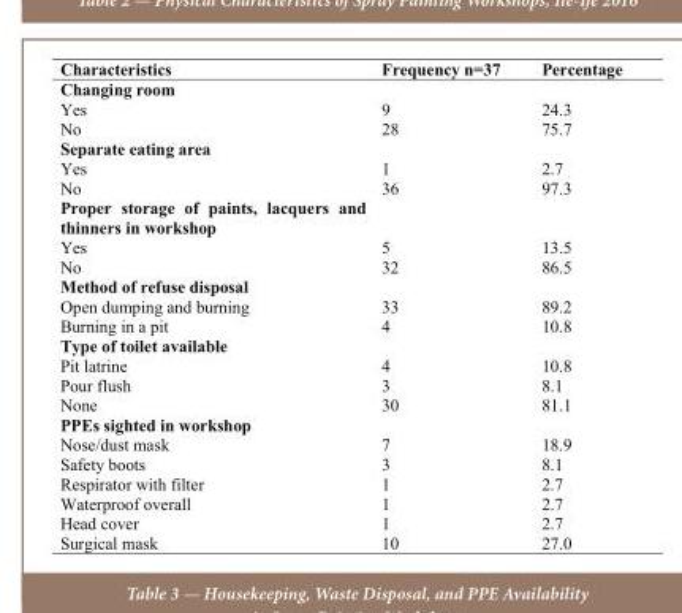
<table><thead><tr><td>Characteristics</td><td>Frequency n=37</td><td>Percentage</td></tr></thead><tbody><tr><td colspan="3">Changing room</td></tr><tr><td>Yes</td><td>9</td><td>24.3</td></tr><tr><td>No</td><td>28</td><td>75.7</td></tr><tr><td colspan="3">Separate eating area</td></tr><tr><td>Yes</td><td>1</td><td>2.7</td></tr><tr><td>No</td><td>36</td><td>97.3</td></tr><tr><td colspan="3">Proper storage of paints, lacquers and thinners in workshop</td></tr><tr><td>Yes</td><td>5</td><td>13.5</td></tr><tr><td>No</td><td>32</td><td>86.5</td></tr><tr><td colspan="3">Method of refuse disposal</td></tr><tr><td>Open dumping and burning</td><td>33</td><td>89.2</td></tr><tr><td>Burning in a pit</td><td>4</td><td>10.8</td></tr><tr><td colspan="3">Type of toilet available</td></tr><tr><td>Pit latrine</td><td>4</td><td>10.8</td></tr><tr><td>Pour flush</td><td>3</td><td>8.1</td></tr><tr><td>None</td><td>30</td><td>81.1</td></tr><tr><td colspan="3">PPEs sighted in workshop</td></tr><tr><td>Nose/dust mask</td><td>7</td><td>18.9</td></tr><tr><td>Safety boots</td><td>3</td><td>8.1</td></tr><tr><td>Respirator with filter</td><td>1</td><td>2.7</td></tr><tr><td>Waterproof overall</td><td>1</td><td>2.7</td></tr><tr><td>Head cover</td><td>1</td><td>2.7</td></tr><tr><td>Surgical mask</td><td>10</td><td>27.0</td></tr></tbody></table>